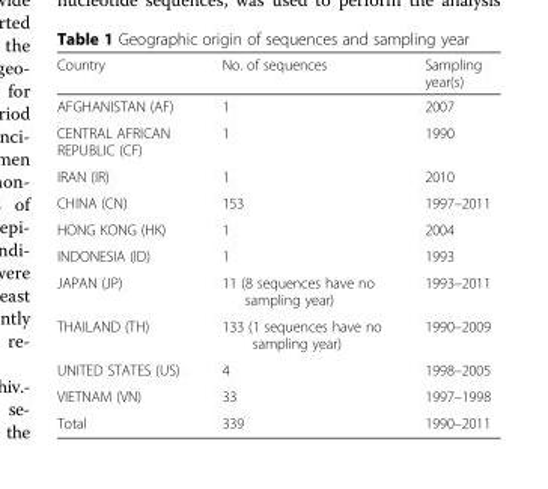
<table><thead><tr><td>Country</td><td>No. of sequences</td><td>Sampling year(s)</td></tr></thead><tbody><tr><td>AFGHANISTAN (AF)</td><td>1</td><td>2007</td></tr><tr><td>CENTRAL AFRICAN REPUBLIC (CF)</td><td>1</td><td>1990</td></tr><tr><td>IRAN (IR)</td><td>1</td><td>2010</td></tr><tr><td>CHINA (CN)</td><td>153</td><td>1997–2011</td></tr><tr><td>HONG KONG (HK)</td><td>1</td><td>2004</td></tr><tr><td>INDONESIA (ID)</td><td>1</td><td>1993</td></tr><tr><td>JAPAN (JP)</td><td>11 (8 sequences have no sampling year)</td><td>1993–2011</td></tr><tr><td>THAILAND (TH)</td><td>133 (1 sequences have no sampling year)</td><td>1990–2009</td></tr><tr><td>UNITED STATES (US)</td><td>4</td><td>1998–2005</td></tr><tr><td>VIETNAM (VN)</td><td>33</td><td>1997–1998</td></tr><tr><td>Total</td><td>339</td><td>1990–2011</td></tr></tbody></table>